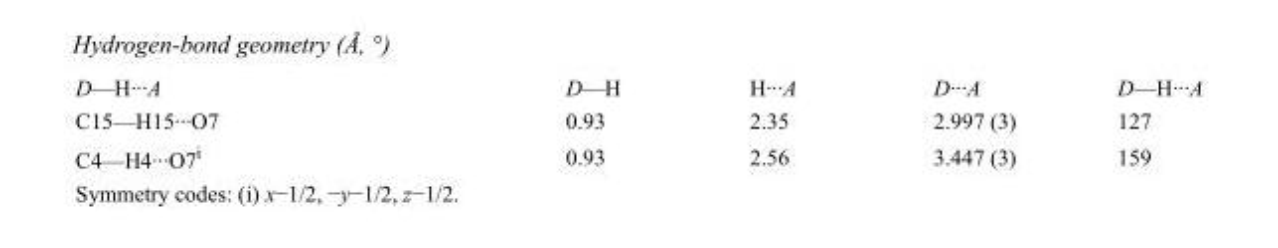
<table><tbody><tr><td>D—H···A</td><td>D—H</td><td>H···A</td><td>D···A</td><td>D—H···A</td></tr><tr><td>C15—H15···O7</td><td>0.93</td><td>2.35</td><td>2.997 (3)</td><td>127</td></tr><tr><td>C4—H4···O7<sup>i</sup></td><td>0.93</td><td>2.56</td><td>3.447 (3)</td><td>159</td></tr></tbody></table>